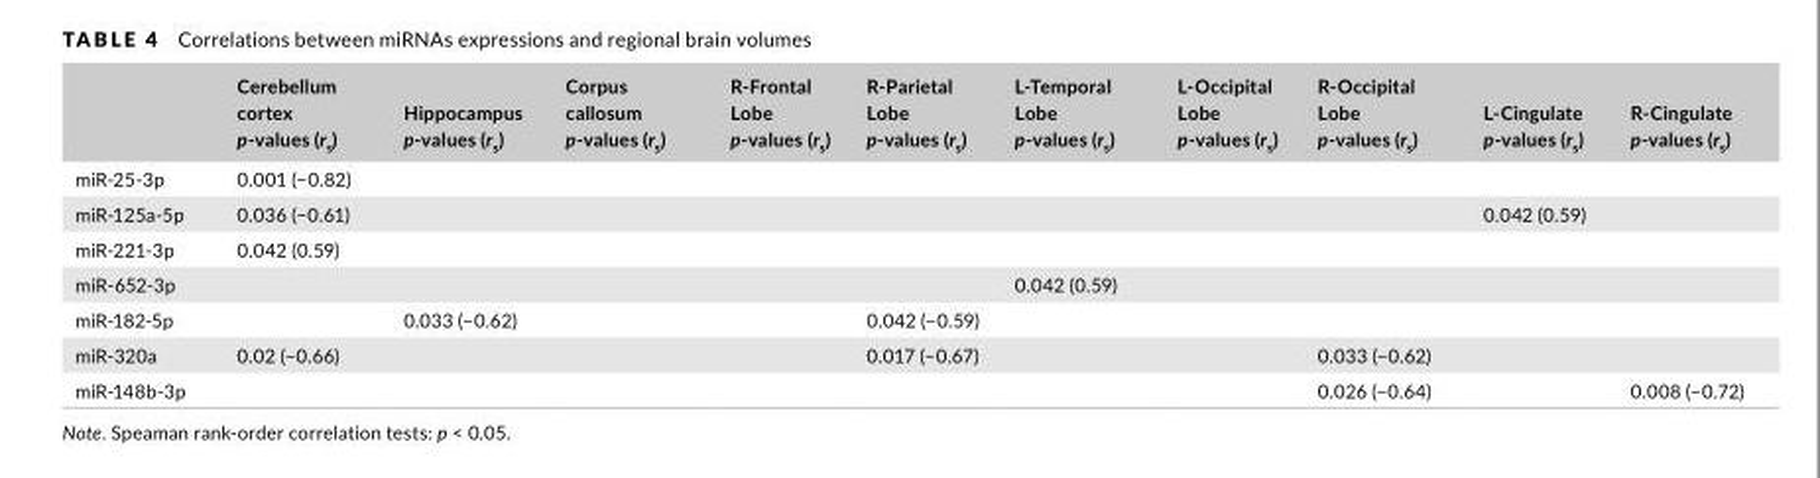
<table><thead><tr><td></td><td>Cerebellum cortex p‐values (r<sub>s</sub>)</td><td>Hippocampus p‐values (r<sub>s</sub>)</td><td>Corpus callosum p‐values (r<sub>s</sub>)</td><td>R‐Frontal Lobe p‐values (r<sub>s</sub>)</td><td>R‐Parietal Lobe p‐values (r<sub>s</sub>)</td><td>L‐Temporal Lobe p‐values (r<sub>s</sub>)</td><td>L‐Occipital Lobe p‐values (r<sub>s</sub>)</td><td>R‐Occipital Lobe p‐values (r<sub>s</sub>)</td><td>L‐Cingulate p‐values (r<sub>s</sub>)</td><td>R‐Cingulate p‐values (r<sub>s</sub>)</td></tr></thead><tbody><tr><td>miR‐25‐3p</td><td>0.001 (−0.82)</td><td></td><td></td><td></td><td></td><td></td><td></td><td></td><td></td><td></td></tr><tr><td>miR‐125a‐5p</td><td>0.036 (−0.61)</td><td></td><td></td><td></td><td></td><td></td><td></td><td></td><td>0.042 (0.59)</td><td></td></tr><tr><td>miR‐221‐3p</td><td>0.042 (0.59)</td><td></td><td></td><td></td><td></td><td></td><td></td><td></td><td></td><td></td></tr><tr><td>miR‐652‐3p</td><td></td><td></td><td></td><td></td><td></td><td>0.042 (0.59)</td><td></td><td></td><td></td><td></td></tr><tr><td>miR‐182‐5p</td><td></td><td>0.033 (−0.62)</td><td></td><td></td><td>0.042 (−0.59)</td><td></td><td></td><td></td><td></td><td></td></tr><tr><td>miR‐320a</td><td>0.02 (−0.66)</td><td></td><td></td><td></td><td>0.017 (−0.67)</td><td></td><td></td><td>0.033 (−0.62)</td><td></td><td></td></tr><tr><td>miR‐148b‐3p</td><td></td><td></td><td></td><td></td><td></td><td></td><td></td><td>0.026 (−0.64)</td><td></td><td>0.008 (−0.72)</td></tr></tbody></table>